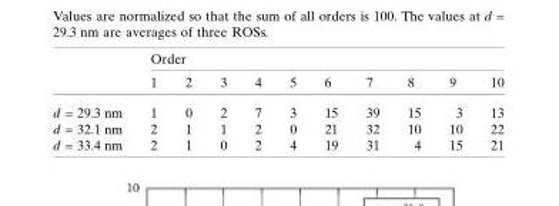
<table><thead><tr><td rowspan="2"></td><td colspan="10">Order</td></tr><tr><td>1</td><td>2</td><td>3</td><td>4</td><td>5</td><td>6</td><td>7</td><td>8</td><td>9</td><td>10</td></tr></thead><tbody><tr><td>d = 29.3 nm</td><td>1</td><td>0</td><td>2</td><td>7</td><td>3</td><td>15</td><td>39</td><td>15</td><td>3</td><td>13</td></tr><tr><td>d = 32.1 nm</td><td>2</td><td>1</td><td>1</td><td>2</td><td>0</td><td>21</td><td>32</td><td>10</td><td>10</td><td>22</td></tr><tr><td>d = 33.4 nm</td><td>2</td><td>1</td><td>0</td><td>2</td><td>4</td><td>19</td><td>31</td><td>4</td><td>15</td><td>21</td></tr></tbody></table>